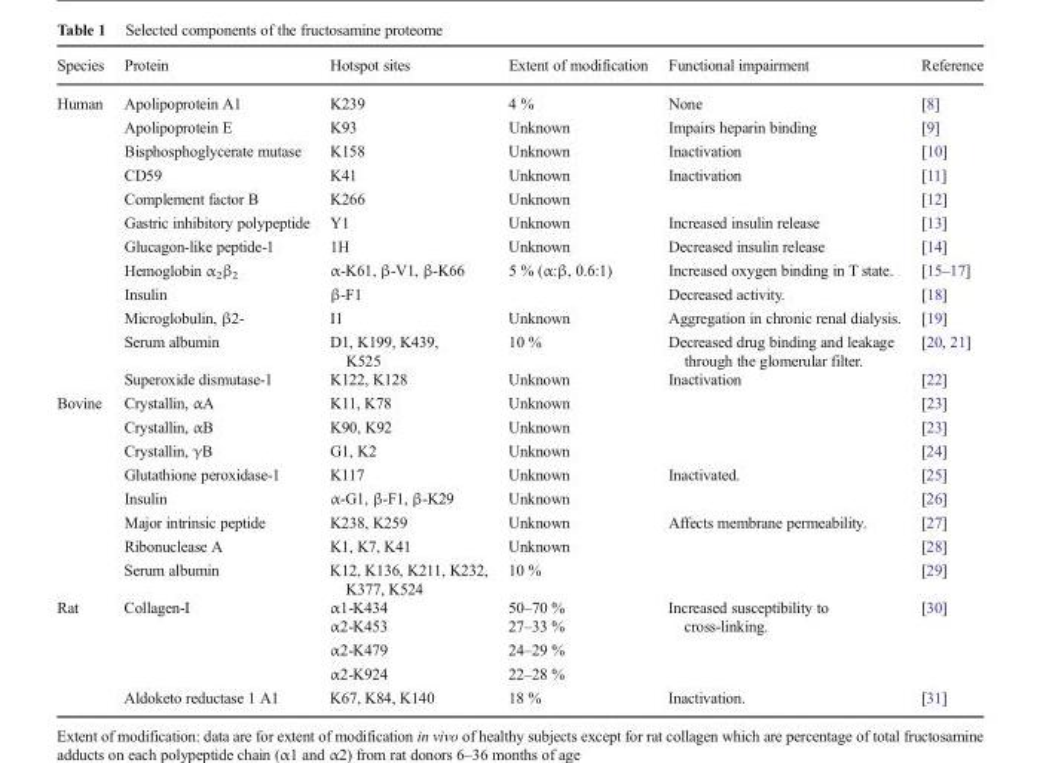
<table><thead><tr><td>Species</td><td>Protein</td><td>Hotspot sites</td><td>Extent of modification</td><td>Functional impairment</td><td>Reference</td></tr></thead><tbody><tr><td rowspan="12">Human</td><td>Apolipoprotein A1</td><td>K239</td><td>4 %</td><td>None</td><td>[8]</td></tr><tr><td>Apolipoprotein E</td><td>K93</td><td>Unknown</td><td>Impairs heparin binding</td><td>[9]</td></tr><tr><td>Bisphosphoglycerate mutase</td><td>K158</td><td>Unknown</td><td>Inactivation</td><td>[10]</td></tr><tr><td>CD59</td><td>K41</td><td>Unknown</td><td>Inactivation</td><td>[11]</td></tr><tr><td>Complement factor B</td><td>K266</td><td>Unknown</td><td></td><td>[12]</td></tr><tr><td>Gastric inhibitory polypeptide</td><td>Y1</td><td>Unknown</td><td>Increased insulin release</td><td>[13]</td></tr><tr><td>Glucagon-like peptide-1</td><td>1H</td><td>Unknown</td><td>Decreased insulin release</td><td>[14]</td></tr><tr><td>Hemoglobin α<sub>2</sub>β<sub>2</sub></td><td>α-K61, β-V1, β-K66</td><td>5 % (α:β, 0.6:1)</td><td>Increased oxygen binding in T state.</td><td>[15–17]</td></tr><tr><td>Insulin</td><td>β-F1</td><td></td><td>Decreased activity.</td><td>[18]</td></tr><tr><td>Microglobulin, β2-</td><td>I1</td><td>Unknown</td><td>Aggregation in chronic renal dialysis.</td><td>[19]</td></tr><tr><td>Serum albumin</td><td>D1, K199, K439, K525</td><td>10 %</td><td>Decreased drug binding and leakage through the glomerular filter.</td><td>[20, 21]</td></tr><tr><td>Superoxide dismutase-1</td><td>K122, K128</td><td>Unknown</td><td>Inactivation</td><td>[22]</td></tr><tr><td rowspan="8">Bovine</td><td>Crystallin, αA</td><td>K11, K78</td><td>Unknown</td><td></td><td>[23]</td></tr><tr><td>Crystallin, αB</td><td>K90, K92</td><td>Unknown</td><td></td><td>[23]</td></tr><tr><td>Crystallin, γB</td><td>G1, K2</td><td>Unknown</td><td></td><td>[24]</td></tr><tr><td>Glutathione peroxidase-1</td><td>K117</td><td>Unknown</td><td>Inactivated.</td><td>[25]</td></tr><tr><td>Insulin</td><td>α-G1, β-F1, β-K29</td><td>Unknown</td><td></td><td>[26]</td></tr><tr><td>Major intrinsic peptide</td><td>K238, K259</td><td>Unknown</td><td>Affects membrane permeability.</td><td>[27]</td></tr><tr><td>Ribonuclease A</td><td>K1, K7, K41</td><td>Unknown</td><td></td><td>[28]</td></tr><tr><td>Serum albumin</td><td>K12, K136, K211, K232, K377, K524</td><td>10 %</td><td></td><td>[29]</td></tr><tr><td rowspan="5">Rat</td><td rowspan="4">Collagen-I</td><td>α1-K434</td><td>50–70 %</td><td rowspan="4">Increased susceptibility to cross-linking.</td><td rowspan="4">[30]</td></tr><tr><td>α2-K453</td><td>27–33 %</td></tr><tr><td>α2-K479</td><td>24–29 %</td></tr><tr><td>α2-K924</td><td>22–28 %</td></tr><tr><td>Aldoketo reductase 1 A1</td><td>K67, K84, K140</td><td>18 %</td><td>Inactivation.</td><td>[31]</td></tr></tbody></table>